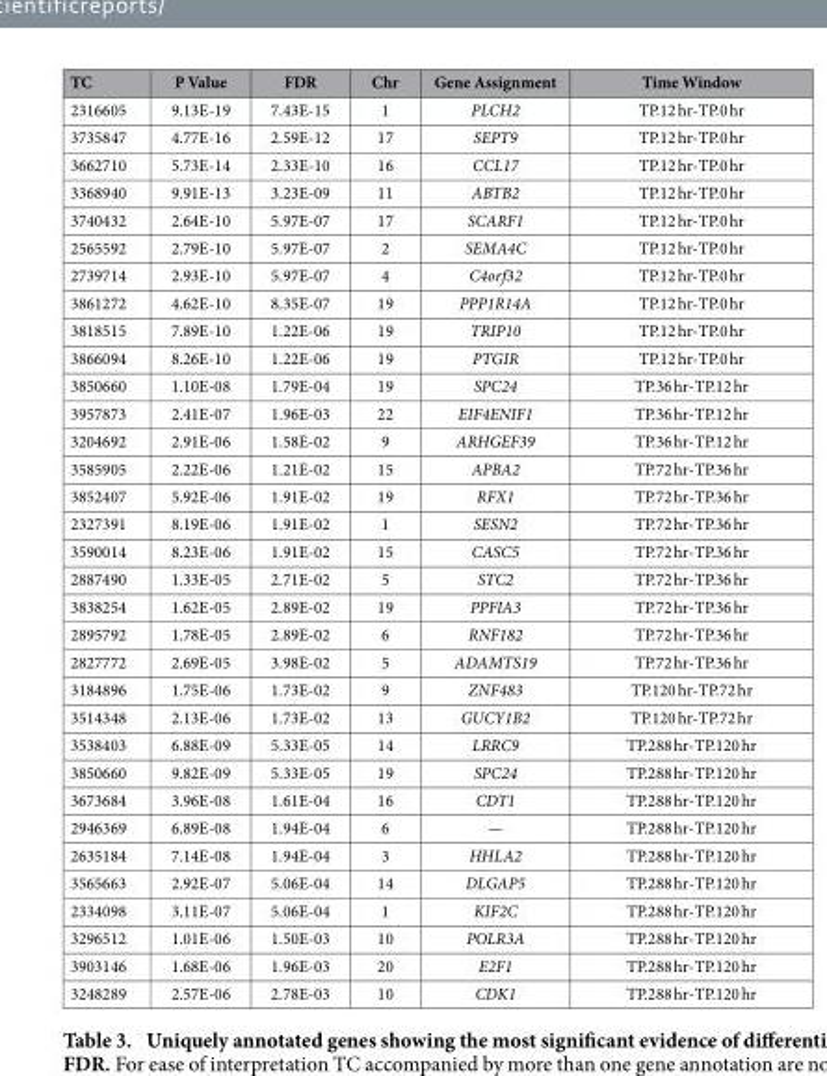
<table><thead><tr><td>TC</td><td>P Value</td><td>FDR</td><td>Chr</td><td>Gene Assignment</td><td>Time Window</td></tr></thead><tbody><tr><td>2316605</td><td>9.13E-19</td><td>7.43E-15</td><td>1</td><td>PLCH2</td><td>TP.12 hr-TP.0 hr</td></tr><tr><td>3735847</td><td>4.77E-16</td><td>2.59E-12</td><td>17</td><td>SEPT9</td><td>TP.12 hr-TP.0 hr</td></tr><tr><td>3662710</td><td>5.73E-14</td><td>2.33E-10</td><td>16</td><td>CCL17</td><td>TP.12 hr-TP.0 hr</td></tr><tr><td>3368940</td><td>9.91E-13</td><td>3.23E-09</td><td>11</td><td>ABTB2</td><td>TP.12 hr-TP.0 hr</td></tr><tr><td>3740432</td><td>2.64E-10</td><td>5.97E-07</td><td>17</td><td>SCARF1</td><td>TP.12 hr-TP.0 hr</td></tr><tr><td>2565592</td><td>2.79E-10</td><td>5.97E-07</td><td>2</td><td>SEMA4C</td><td>TP.12 hr-TP.0 hr</td></tr><tr><td>2739714</td><td>2.93E-10</td><td>5.97E-07</td><td>4</td><td>C4orf32</td><td>TP.12 hr-TP.0 hr</td></tr><tr><td>3861272</td><td>4.62E-10</td><td>8.35E-07</td><td>19</td><td>PPP1R14A</td><td>TP.12 hr-TP.0 hr</td></tr><tr><td>3818515</td><td>7.89E-10</td><td>1.22E-06</td><td>19</td><td>TRIP10</td><td>TP.12 hr-TP.0 hr</td></tr><tr><td>3866094</td><td>8.26E-10</td><td>1.22E-06</td><td>19</td><td>PTGIR</td><td>TP.12 hr-TP.0 hr</td></tr><tr><td>3850660</td><td>1.10E-08</td><td>1.79E-04</td><td>19</td><td>SPC24</td><td>TP.36 hr-TP.12 hr</td></tr><tr><td>3957873</td><td>2.41E-07</td><td>1.96E-03</td><td>22</td><td>EIF4ENIF1</td><td>TP.36 hr-TP.12 hr</td></tr><tr><td>3204692</td><td>2.91E-06</td><td>1.58E-02</td><td>9</td><td>ARHGEF39</td><td>TP.36 hr-TP.12 hr</td></tr><tr><td>3585905</td><td>2.22E-06</td><td>1.21E-02</td><td>15</td><td>APBA2</td><td>TP.72 hr-TP.36 hr</td></tr><tr><td>3852407</td><td>5.92E-06</td><td>1.91E-02</td><td>19</td><td>RFX1</td><td>TP.72 hr-TP.36 hr</td></tr><tr><td>2327391</td><td>8.19E-06</td><td>1.91E-02</td><td>1</td><td>SESN2</td><td>TP.72 hr-TP.36 hr</td></tr><tr><td>3590014</td><td>8.23E-06</td><td>1.91E-02</td><td>15</td><td>CASC5</td><td>TP.72 hr-TP.36 hr</td></tr><tr><td>2887490</td><td>1.33E-05</td><td>2.71E-02</td><td>5</td><td>STC2</td><td>TP.72 hr-TP.36 hr</td></tr><tr><td>3838254</td><td>1.62E-05</td><td>2.89E-02</td><td>19</td><td>PPFIA3</td><td>TP.72 hr-TP.36 hr</td></tr><tr><td>2895792</td><td>1.78E-05</td><td>2.89E-02</td><td>6</td><td>RNF182</td><td>TP.72 hr-TP.36 hr</td></tr><tr><td>2827772</td><td>2.69E-05</td><td>3.98E-02</td><td>5</td><td>ADAMTS19</td><td>TP.72 hr-TP.36 hr</td></tr><tr><td>3184896</td><td>1.75E-06</td><td>1.73E-02</td><td>9</td><td>ZNF483</td><td>TP.120 hr-TP.72 hr</td></tr><tr><td>3514348</td><td>2.13E-06</td><td>1.73E-02</td><td>13</td><td>GUCY1B2</td><td>TP.120 hr-TP.72 hr</td></tr><tr><td>3538403</td><td>6.88E-09</td><td>5.33E-05</td><td>14</td><td>LRRC9</td><td>TP.288 hr-TP.120 hr</td></tr><tr><td>3850660</td><td>9.82E-09</td><td>5.33E-05</td><td>19</td><td>SPC24</td><td>TP.288 hr-TP.120 hr</td></tr><tr><td>3673684</td><td>3.96E-08</td><td>1.61E-04</td><td>16</td><td>CDT1</td><td>TP.288 hr-TP.120 hr</td></tr><tr><td>2946369</td><td>6.89E-08</td><td>1.94E-04</td><td>6</td><td>—</td><td>TP.288 hr-TP.120 hr</td></tr><tr><td>2635184</td><td>7.14E-08</td><td>1.94E-04</td><td>3</td><td>HHLA2</td><td>TP.288 hr-TP.120 hr</td></tr><tr><td>3565663</td><td>2.92E-07</td><td>5.06E-04</td><td>14</td><td>DLGAP5</td><td>TP.288 hr-TP.120 hr</td></tr><tr><td>2334098</td><td>3.11E-07</td><td>5.06E-04</td><td>1</td><td>KIF2C</td><td>TP.288 hr-TP.120 hr</td></tr><tr><td>3296512</td><td>1.01E-06</td><td>1.50E-03</td><td>10</td><td>POLR3A</td><td>TP.288 hr-TP.120 hr</td></tr><tr><td>3903146</td><td>1.68E-06</td><td>1.96E-03</td><td>20</td><td>E2F1</td><td>TP.288 hr-TP.120 hr</td></tr><tr><td>3248289</td><td>2.57E-06</td><td>2.78E-03</td><td>10</td><td>CDK1</td><td>TP.288 hr-TP.120 hr</td></tr></tbody></table>